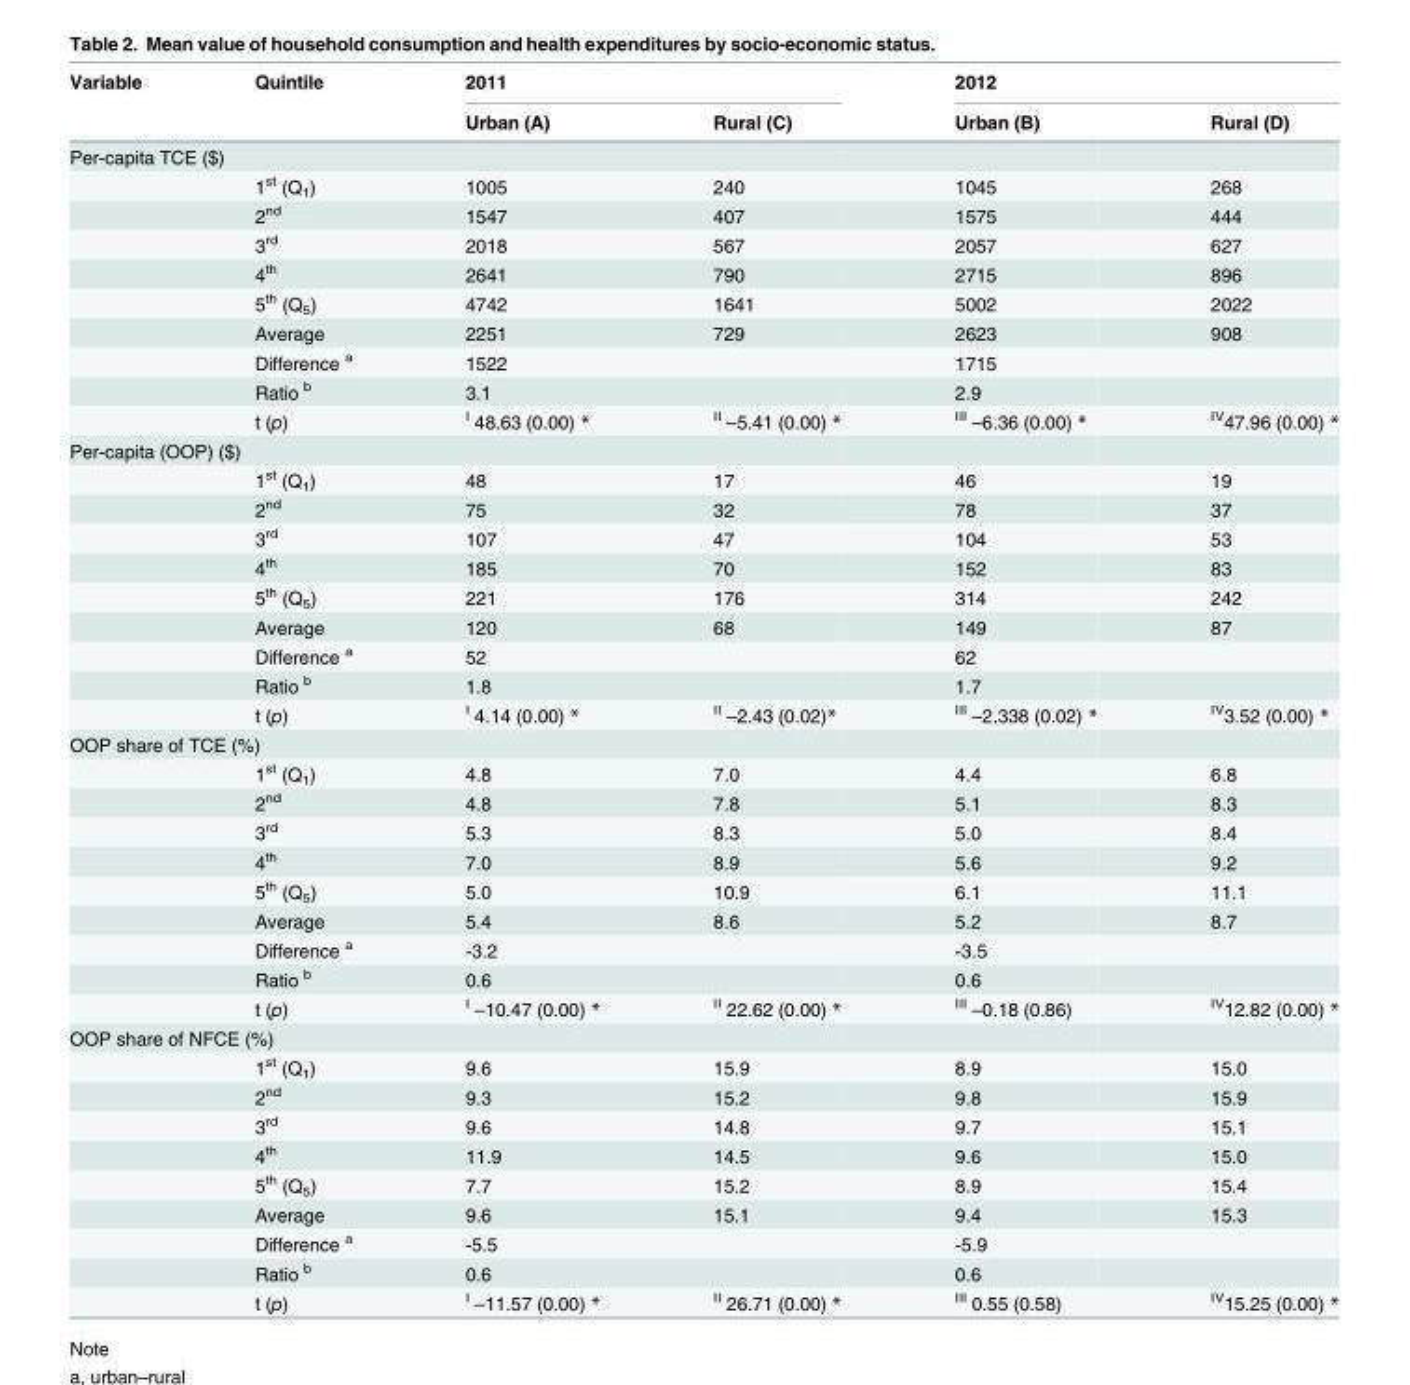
<table><thead><tr><td rowspan="2">Variable</td><td rowspan="2">Quintile</td><td colspan="2">2011</td><td colspan="2">2012</td></tr><tr><td>Urban (A)</td><td>Rural (C)</td><td>Urban (B)</td><td>Rural (D)</td></tr></thead><tbody><tr><td colspan="6">Per-capita TCE ($)</td></tr><tr><td></td><td>1<sup>st</sup> (Q<sub>1</sub>)</td><td>1005</td><td>240</td><td>1045</td><td>268</td></tr><tr><td></td><td>2<sup>nd</sup></td><td>1547</td><td>407</td><td>1575</td><td>444</td></tr><tr><td></td><td>3<sup>rd</sup></td><td>2018</td><td>567</td><td>2057</td><td>627</td></tr><tr><td></td><td>4<sup>th</sup></td><td>2641</td><td>790</td><td>2715</td><td>896</td></tr><tr><td></td><td>5<sup>th</sup> (Q<sub>5</sub>)</td><td>4742</td><td>1641</td><td>5002</td><td>2022</td></tr><tr><td></td><td>Average</td><td>2251</td><td>729</td><td>2623</td><td>908</td></tr><tr><td></td><td>Difference <sup>a</sup></td><td>1522</td><td></td><td>1715</td><td></td></tr><tr><td></td><td>Ratio <sup>b</sup></td><td>3.1</td><td></td><td>2.9</td><td></td></tr><tr><td></td><td>t (p)</td><td><sup>I</sup> 48.63 (0.00) *</td><td><sup>II</sup> –5.41 (0.00) *</td><td><sup>III</sup> –6.36 (0.00) *</td><td><sup>IV</sup>47.96 (0.00) *</td></tr><tr><td colspan="6">Per-capita (OOP) ($)</td></tr><tr><td></td><td>1<sup>st</sup> (Q<sub>1</sub>)</td><td>48</td><td>17</td><td>46</td><td>19</td></tr><tr><td></td><td>2<sup>nd</sup></td><td>75</td><td>32</td><td>78</td><td>37</td></tr><tr><td></td><td>3<sup>rd</sup></td><td>107</td><td>47</td><td>104</td><td>53</td></tr><tr><td></td><td>4<sup>th</sup></td><td>185</td><td>70</td><td>152</td><td>83</td></tr><tr><td></td><td>5<sup>th</sup> (Q<sub>5</sub>)</td><td>221</td><td>176</td><td>314</td><td>242</td></tr><tr><td></td><td>Average</td><td>120</td><td>68</td><td>149</td><td>87</td></tr><tr><td></td><td>Difference <sup>a</sup></td><td>52</td><td></td><td>62</td><td></td></tr><tr><td></td><td>Ratio <sup>b</sup></td><td>1.8</td><td></td><td>1.7</td><td></td></tr><tr><td></td><td>t (p)</td><td><sup>I</sup> 4.14 (0.00) *</td><td><sup>II</sup> –2.43 (0.02)*</td><td><sup>III</sup> –2.338 (0.02) *</td><td><sup>IV</sup>3.52 (0.00) *</td></tr><tr><td colspan="6">OOP share of TCE (%)</td></tr><tr><td></td><td>1<sup>st</sup> (Q<sub>1</sub>)</td><td>4.8</td><td>7.0</td><td>4.4</td><td>6.8</td></tr><tr><td></td><td>2<sup>nd</sup></td><td>4.8</td><td>7.8</td><td>5.1</td><td>8.3</td></tr><tr><td></td><td>3<sup>rd</sup></td><td>5.3</td><td>8.3</td><td>5.0</td><td>8.4</td></tr><tr><td></td><td>4<sup>th</sup></td><td>7.0</td><td>8.9</td><td>5.6</td><td>9.2</td></tr><tr><td></td><td>5<sup>th</sup> (Q<sub>5</sub>)</td><td>5.0</td><td>10.9</td><td>6.1</td><td>11.1</td></tr><tr><td></td><td>Average</td><td>5.4</td><td>8.6</td><td>5.2</td><td>8.7</td></tr><tr><td></td><td>Difference <sup>a</sup></td><td>-3.2</td><td></td><td>-3.5</td><td></td></tr><tr><td></td><td>Ratio <sup>b</sup></td><td>0.6</td><td></td><td>0.6</td><td></td></tr><tr><td></td><td>t (p)</td><td><sup>I</sup> –10.47 (0.00) *</td><td><sup>II</sup> 22.62 (0.00) *</td><td><sup>III</sup> –0.18 (0.86)</td><td><sup>IV</sup>12.82 (0.00) *</td></tr><tr><td colspan="6">OOP share of NFCE (%)</td></tr><tr><td></td><td>1<sup>st</sup> (Q<sub>1</sub>)</td><td>9.6</td><td>15.9</td><td>8.9</td><td>15.0</td></tr><tr><td></td><td>2<sup>nd</sup></td><td>9.3</td><td>15.2</td><td>9.8</td><td>15.9</td></tr><tr><td></td><td>3<sup>rd</sup></td><td>9.6</td><td>14.8</td><td>9.7</td><td>15.1</td></tr><tr><td></td><td>4<sup>th</sup></td><td>11.9</td><td>14.5</td><td>9.6</td><td>15.0</td></tr><tr><td></td><td>5<sup>th</sup> (Q<sub>5</sub>)</td><td>7.7</td><td>15.2</td><td>8.9</td><td>15.4</td></tr><tr><td></td><td>Average</td><td>9.6</td><td>15.1</td><td>9.4</td><td>15.3</td></tr><tr><td></td><td>Difference <sup>a</sup></td><td>-5.5</td><td></td><td>-5.9</td><td></td></tr><tr><td></td><td>Ratio <sup>b</sup></td><td>0.6</td><td></td><td>0.6</td><td></td></tr><tr><td></td><td>t (p)</td><td><sup>I</sup> –11.57 (0.00) *</td><td><sup>II</sup> 26.71 (0.00) *</td><td><sup>III</sup> 0.55 (0.58)</td><td><sup>IV</sup>15.25 (0.00) *</td></tr></tbody></table>